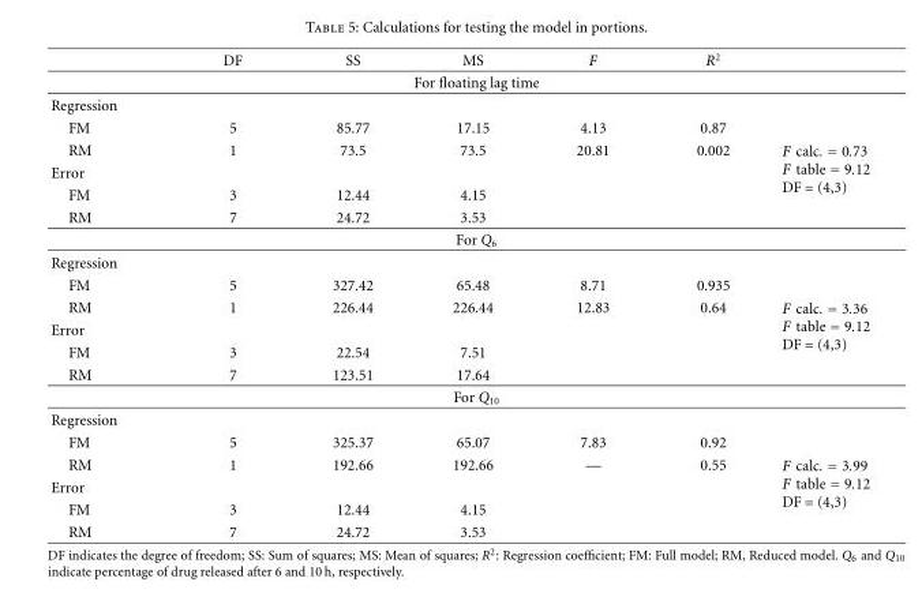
<table><thead><tr><td></td><td>DF</td><td>SS</td><td>MS</td><td>F</td><td>R<sup>2</sup></td><td></td></tr></thead><tbody><tr><td colspan="7">For floating lag time</td></tr><tr><td colspan="7">Regression</td></tr><tr><td>FM</td><td>5</td><td>85.77</td><td>17.15</td><td>4.13</td><td>0.87</td><td rowspan="5">F calc. = 0.73 F table = 9.12 DF = (4,3)</td></tr><tr><td>RM</td><td>1</td><td>73.5</td><td>73.5</td><td>20.81</td><td>0.002</td></tr><tr><td colspan="6">Error</td></tr><tr><td>FM</td><td>3</td><td>12.44</td><td>4.15</td><td></td><td></td></tr><tr><td>RM</td><td>7</td><td>24.72</td><td>3.53</td><td></td><td></td></tr><tr><td colspan="7">For Q<sub>6</sub></td></tr><tr><td colspan="7">Regression</td></tr><tr><td>FM</td><td>5</td><td>327.42</td><td>65.48</td><td>8.71</td><td>0.935</td><td rowspan="5">F calc. = 3.36 F table = 9.12 DF = (4,3)</td></tr><tr><td>RM</td><td>1</td><td>226.44</td><td>226.44</td><td>12.83</td><td>0.64</td></tr><tr><td colspan="6">Error</td></tr><tr><td>FM</td><td>3</td><td>22.54</td><td>7.51</td><td></td><td></td></tr><tr><td>RM</td><td>7</td><td>123.51</td><td>17.64</td><td></td><td></td></tr><tr><td colspan="7">For Q<sub>10</sub></td></tr><tr><td colspan="7">Regression</td></tr><tr><td>FM</td><td>5</td><td>325.37</td><td>65.07</td><td>7.83</td><td>0.92</td><td rowspan="5">F calc. = 3.99 F table = 9.12 DF = (4,3)</td></tr><tr><td>RM</td><td>1</td><td>192.66</td><td>192.66</td><td>—</td><td>0.55</td></tr><tr><td colspan="6">Error</td></tr><tr><td>FM</td><td>3</td><td>12.44</td><td>4.15</td><td></td><td></td></tr><tr><td>RM</td><td>7</td><td>24.72</td><td>3.53</td><td></td><td></td></tr></tbody></table>